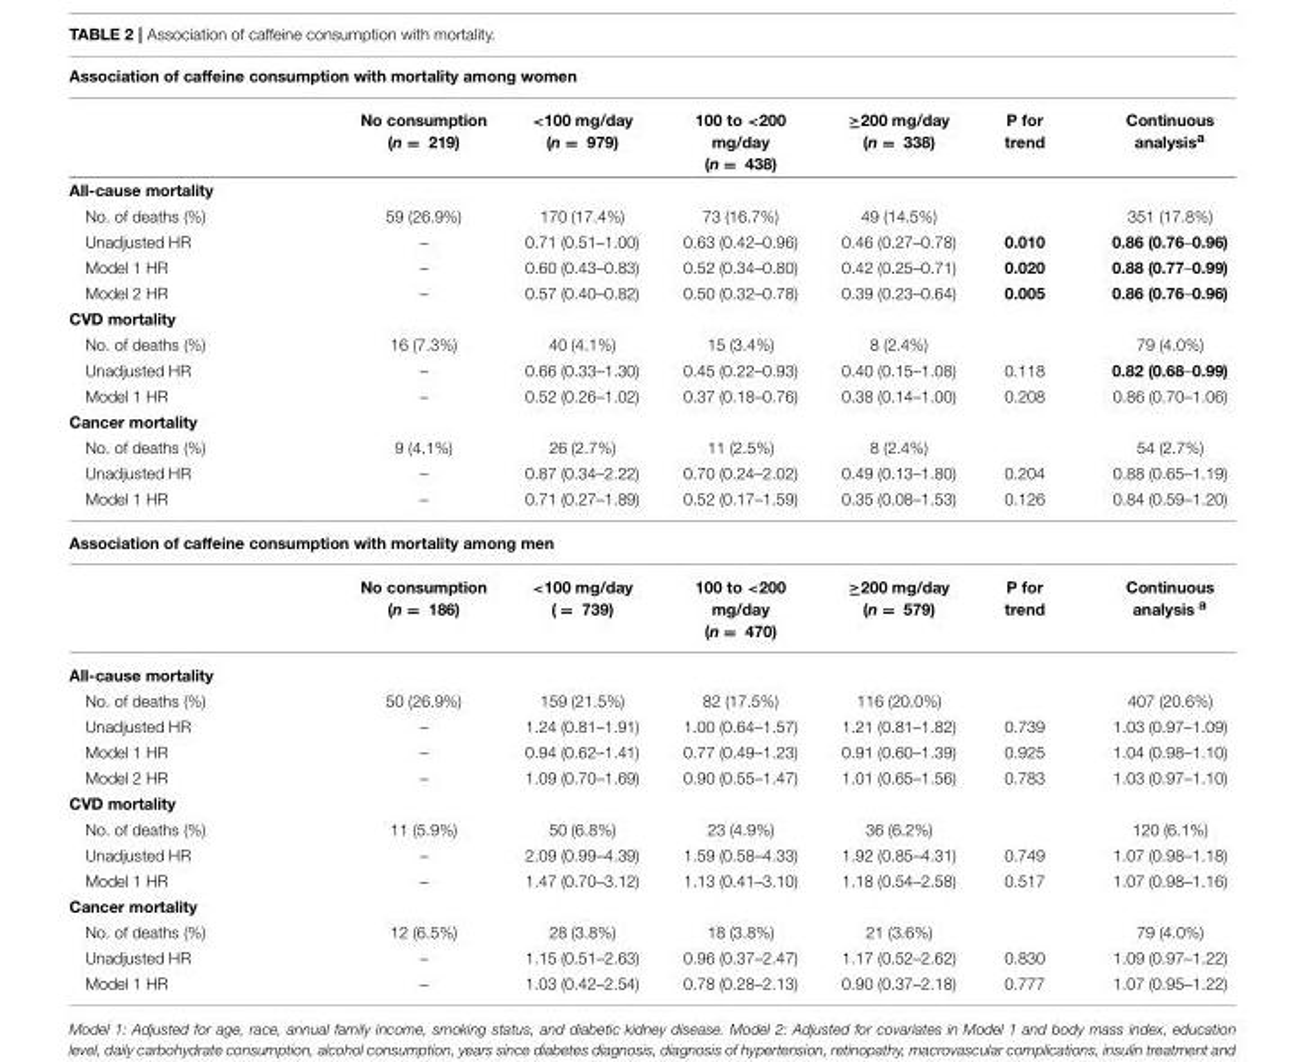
<table><thead><tr><td colspan="7">Association of caffeine consumption with mortality among women</td></tr><tr><td></td><td>No consumption (n = 219)</td><td>&lt;100 mg/day (n = 979)</td><td>100 to &lt;200 mg/day (n = 438)</td><td>≥200 mg/day (n = 338)</td><td>P for trend</td><td>Continuous analysis<sup>a</sup></td></tr></thead><tbody><tr><td colspan="7">All-cause mortality</td></tr><tr><td>No. of deaths (%)</td><td>59 (26.9%)</td><td>170 (17.4%)</td><td>73 (16.7%)</td><td>49 (14.5%)</td><td></td><td>351 (17.8%)</td></tr><tr><td>Unadjusted HR</td><td>–</td><td>0.71 (0.51–1.00)</td><td>0.63 (0.42–0.96)</td><td>0.46 (0.27–0.78)</td><td>0.010</td><td>0.86 (0.76–0.96)</td></tr><tr><td>Model 1 HR</td><td>–</td><td>0.60 (0.43–0.83)</td><td>0.52 (0.34–0.80)</td><td>0.42 (0.25–0.71)</td><td>0.020</td><td>0.88 (0.77–0.99)</td></tr><tr><td>Model 2 HR</td><td>–</td><td>0.57 (0.40–0.82)</td><td>0.50 (0.32–0.78)</td><td>0.39 (0.23–0.64)</td><td>0.005</td><td>0.86 (0.76–0.96)</td></tr><tr><td colspan="7">CVD mortality</td></tr><tr><td>No. of deaths (%)</td><td>16 (7.3%)</td><td>40 (4.1%)</td><td>15 (3.4%)</td><td>8 (2.4%)</td><td></td><td>79 (4.0%)</td></tr><tr><td>Unadjusted HR</td><td>–</td><td>0.66 (0.33–1.30)</td><td>0.45 (0.22–0.93)</td><td>0.40 (0.15–1.08)</td><td>0.118</td><td>0.82 (0.68–0.99)</td></tr><tr><td>Model 1 HR</td><td>–</td><td>0.52 (0.26–1.02)</td><td>0.37 (0.18–0.76)</td><td>0.38 (0.14–1.00)</td><td>0.208</td><td>0.86 (0.70–1.06)</td></tr><tr><td colspan="7">Cancer mortality</td></tr><tr><td>No. of deaths (%)</td><td>9 (4.1%)</td><td>26 (2.7%)</td><td>11 (2.5%)</td><td>8 (2.4%)</td><td></td><td>54 (2.7%)</td></tr><tr><td>Unadjusted HR</td><td>–</td><td>0.87 (0.34–2.22)</td><td>0.70 (0.24–2.02)</td><td>0.49 (0.13–1.80)</td><td>0.204</td><td>0.88 (0.65–1.19)</td></tr><tr><td>Model 1 HR</td><td>–</td><td>0.71 (0.27–1.89)</td><td>0.52 (0.17–1.59)</td><td>0.35 (0.08–1.53)</td><td>0.126</td><td>0.84 (0.59–1.20)</td></tr><tr><td colspan="7">Association of caffeine consumption with mortality among men</td></tr><tr><td></td><td>No consumption (n = 186)</td><td>&lt;100 mg/day ( = 739)</td><td>100 to &lt;200 mg/day (n = 470)</td><td>≥200 mg/day (n = 579)</td><td>P for trend</td><td>Continuous analysis <sup>a</sup></td></tr><tr><td colspan="7">All-cause mortality</td></tr><tr><td>No. of deaths (%)</td><td>50 (26.9%)</td><td>159 (21.5%)</td><td>82 (17.5%)</td><td>116 (20.0%)</td><td></td><td>407 (20.6%)</td></tr><tr><td>Unadjusted HR</td><td>–</td><td>1.24 (0.81–1.91)</td><td>1.00 (0.64–1.57)</td><td>1.21 (0.81–1.82)</td><td>0.739</td><td>1.03 (0.97–1.09)</td></tr><tr><td>Model 1 HR</td><td>–</td><td>0.94 (0.62–1.41)</td><td>0.77 (0.49–1.23)</td><td>0.91 (0.60–1.39)</td><td>0.925</td><td>1.04 (0.98–1.10)</td></tr><tr><td>Model 2 HR</td><td>–</td><td>1.09 (0.70–1.69)</td><td>0.90 (0.55–1.47)</td><td>1.01 (0.65–1.56)</td><td>0.783</td><td>1.03 (0.97–1.10)</td></tr><tr><td colspan="7">CVD mortality</td></tr><tr><td>No. of deaths (%)</td><td>11 (5.9%)</td><td>50 (6.8%)</td><td>23 (4.9%)</td><td>36 (6.2%)</td><td></td><td>120 (6.1%)</td></tr><tr><td>Unadjusted HR</td><td>–</td><td>2.09 (0.99–4.39)</td><td>1.59 (0.58–4.33)</td><td>1.92 (0.85–4.31)</td><td>0.749</td><td>1.07 (0.98–1.18)</td></tr><tr><td>Model 1 HR</td><td>–</td><td>1.47 (0.70–3.12)</td><td>1.13 (0.41–3.10)</td><td>1.18 (0.54–2.58)</td><td>0.517</td><td>1.07 (0.98–1.16)</td></tr><tr><td colspan="7">Cancer mortality</td></tr><tr><td>No. of deaths (%)</td><td>12 (6.5%)</td><td>28 (3.8%)</td><td>18 (3.8%)</td><td>21 (3.6%)</td><td></td><td>79 (4.0%)</td></tr><tr><td>Unadjusted HR</td><td>–</td><td>1.15 (0.51–2.63)</td><td>0.96 (0.37–2.47)</td><td>1.17 (0.52–2.62)</td><td>0.830</td><td>1.09 (0.97–1.22)</td></tr><tr><td>Model 1 HR</td><td>–</td><td>1.03 (0.42–2.54)</td><td>0.78 (0.28–2.13)</td><td>0.90 (0.37–2.18)</td><td>0.777</td><td>1.07 (0.95–1.22)</td></tr></tbody></table>